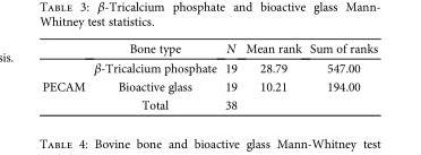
<table><thead><tr><td></td><td>Bone type</td><td>N</td><td>Mean rank</td><td>Sum of ranks</td></tr></thead><tbody><tr><td rowspan="3">PECAM</td><td>β-Tricalcium phosphate</td><td>19</td><td>28.79</td><td>547.00</td></tr><tr><td>Bioactive glass</td><td>19</td><td>10.21</td><td>194.00</td></tr><tr><td>Total</td><td>38</td><td></td><td></td></tr></tbody></table>